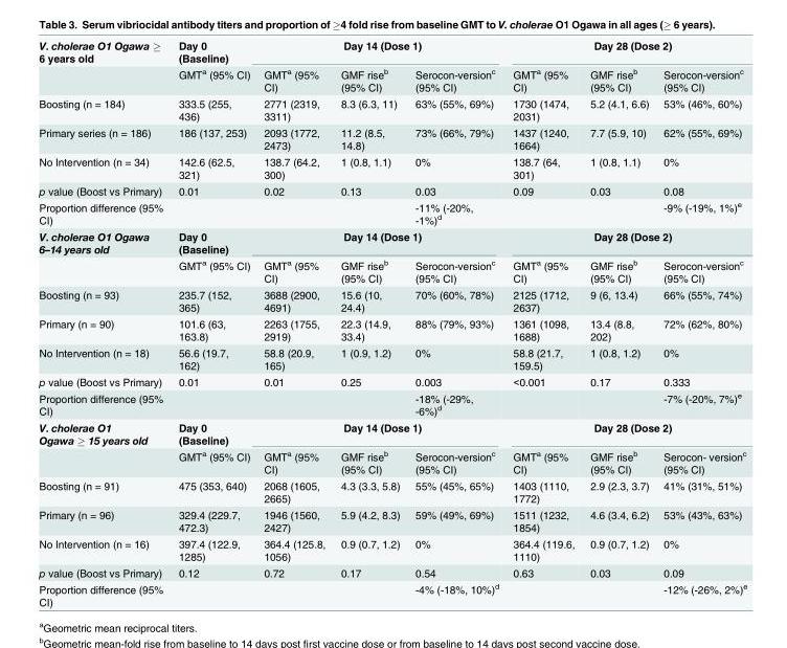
<table><tbody><tr><td rowspan="2">V. cholerae O1 Ogawa ≥ 6 years old</td><td>Day 0 (Baseline)</td><td colspan="3">Day 14 (Dose 1)</td><td colspan="3">Day 28 (Dose 2)</td></tr><tr><td>GMT<sup>a</sup> (95% CI)</td><td>GMT<sup>a</sup> (95% CI)</td><td>GMF rise<sup>b</sup> (95% CI)</td><td>Serocon-version<sup>c</sup> (95% CI)</td><td>GMT<sup>a</sup> (95% CI)</td><td>GMF rise<sup>b</sup> (95% CI)</td><td>Serocon-version<sup>c</sup> (95% CI)</td></tr><tr><td>Boosting (n = 184)</td><td>333.5 (255, 436)</td><td>2771 (2319, 3311)</td><td>8.3 (6.3, 11)</td><td>63% (55%, 69%)</td><td>1730 (1474, 2031)</td><td>5.2 (4.1, 6.6)</td><td>53% (46%, 60%)</td></tr><tr><td>Primary series (n = 186)</td><td>186 (137, 253)</td><td>2093 (1772, 2473)</td><td>11.2 (8.5, 14.8)</td><td>73% (66%, 79%)</td><td>1437 (1240, 1664)</td><td>7.7 (5.9, 10)</td><td>62% (55%, 69%)</td></tr><tr><td>No Intervention (n = 34)</td><td>142.6 (62.5, 321)</td><td>138.7 (64.2, 300)</td><td>1 (0.8, 1.1)</td><td>0%</td><td>138.7 (64, 301)</td><td>1 (0.8, 1.1)</td><td>0%</td></tr><tr><td>p value (Boost vs Primary)</td><td>0.01</td><td>0.02</td><td>0.13</td><td>0.03</td><td>0.09</td><td>0.03</td><td>0.08</td></tr><tr><td>Proportion difference (95% CI)</td><td></td><td></td><td></td><td>-11% (-20%, -1%)<sup>d</sup></td><td></td><td></td><td>-9% (-19%, 1%)<sup>e</sup></td></tr><tr><td rowspan="2">V. cholerae O1 Ogawa 6–14 years old</td><td>Day 0 (Baseline)</td><td colspan="3">Day 14 (Dose 1)</td><td colspan="3">Day 28 (Dose 2)</td></tr><tr><td>GMT<sup>a</sup> (95% CI)</td><td>GMT<sup>a</sup> (95% CI)</td><td>GMF rise<sup>b</sup> (95% CI)</td><td>Serocon-version<sup>c</sup> (95% CI)</td><td>GMT<sup>a</sup> (95% CI)</td><td>GMF rise<sup>b</sup> (95% CI)</td><td>Serocon-version<sup>c</sup> (95% CI)</td></tr><tr><td>Boosting (n = 93)</td><td>235.7 (152, 365)</td><td>3688 (2900, 4691)</td><td>15.6 (10, 24.4)</td><td>70% (60%, 78%)</td><td>2125 (1712, 2637)</td><td>9 (6, 13.4)</td><td>66% (55%, 74%)</td></tr><tr><td>Primary (n = 90)</td><td>101.6 (63, 163.8)</td><td>2263 (1755, 2919)</td><td>22.3 (14.9, 33.4)</td><td>88% (79%, 93%)</td><td>1361 (1098, 1688)</td><td>13.4 (8.8, 202)</td><td>72% (62%, 80%)</td></tr><tr><td>No Intervention (n = 18)</td><td>56.6 (19.7, 162)</td><td>58.8 (20.9, 165)</td><td>1 (0.9, 1.2)</td><td>0%</td><td>58.8 (21.7, 159.5)</td><td>1 (0.8, 1.2)</td><td>0%</td></tr><tr><td>p value (Boost vs Primary)</td><td>0.01</td><td>0.01</td><td>0.25</td><td>0.003</td><td>&lt;0.001</td><td>0.17</td><td>0.333</td></tr><tr><td>Proportion difference (95% CI)</td><td></td><td></td><td></td><td>-18% (-29%, -6%)<sup>d</sup></td><td></td><td></td><td>-7% (-20%, 7%)<sup>e</sup></td></tr><tr><td rowspan="2">V. cholerae O1 Ogawa ≥ 15 years old</td><td>Day 0 (Baseline)</td><td colspan="3">Day 14 (Dose 1)</td><td colspan="3">Day 28 (Dose 2)</td></tr><tr><td>GMT<sup>a</sup> (95% CI)</td><td>GMT<sup>a</sup> (95% CI)</td><td>GMF rise<sup>b</sup> (95% CI)</td><td>Serocon-version<sup>c</sup> (95% CI)</td><td>GMT<sup>a</sup> (95% CI)</td><td>GMF rise<sup>b</sup> (95% CI)</td><td>Serocon- version<sup>c</sup> (95% CI)</td></tr><tr><td>Boosting (n = 91)</td><td>475 (353, 640)</td><td>2068 (1605, 2665)</td><td>4.3 (3.3, 5.8)</td><td>55% (45%, 65%)</td><td>1403 (1110, 1772)</td><td>2.9 (2.3, 3.7)</td><td>41% (31%, 51%)</td></tr><tr><td>Primary (n = 96)</td><td>329.4 (229.7, 472.3)</td><td>1946 (1560, 2427)</td><td>5.9 (4.2, 8.3)</td><td>59% (49%, 69%)</td><td>1511 (1232, 1854)</td><td>4.6 (3.4, 6.2)</td><td>53% (43%, 63%)</td></tr><tr><td>No Intervention (n = 16)</td><td>397.4 (122.9, 1285)</td><td>364.4 (125.8, 1056)</td><td>0.9 (0.7, 1.2)</td><td>0%</td><td>364.4 (119.6, 1110)</td><td>0.9 (0.7, 1.2)</td><td>0%</td></tr><tr><td>p value (Boost vs Primary)</td><td>0.12</td><td>0.72</td><td>0.17</td><td>0.54</td><td>0.63</td><td>0.03</td><td>0.09</td></tr><tr><td>Proportion difference (95% CI)</td><td></td><td></td><td></td><td>-4% (-18%, 10%)<sup>d</sup></td><td></td><td></td><td>-12% (-26%, 2%)<sup>e</sup></td></tr></tbody></table>